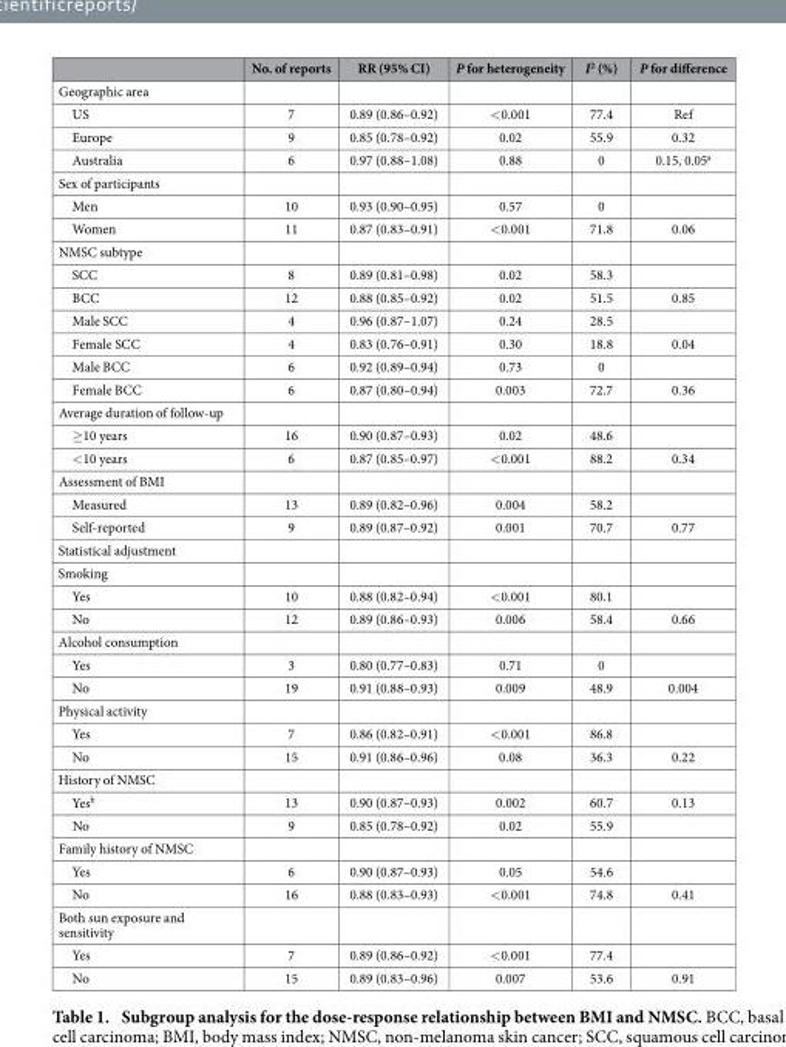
<table><thead><tr><td></td><td>No. of reports</td><td>RR (95% CI)</td><td>P for heterogeneity</td><td>I<sup>2</sup> (%)</td><td>P for difference</td></tr></thead><tbody><tr><td colspan="6">Geographic area</td></tr><tr><td>US</td><td>7</td><td>0.89 (0.86–0.92)</td><td>&lt; 0.001</td><td>77.4</td><td>Ref</td></tr><tr><td>Europe</td><td>9</td><td>0.85 (0.78–0.92)</td><td>0.02</td><td>55.9</td><td>0.32</td></tr><tr><td>Australia</td><td>6</td><td>0.97 (0.88–1.08)</td><td>0.88</td><td>0</td><td>0.15, 0.05<sup>a</sup></td></tr><tr><td colspan="6">Sex of participants</td></tr><tr><td>Men</td><td>10</td><td>0.93 (0.90–0.95)</td><td>0.57</td><td>0</td><td></td></tr><tr><td>Women</td><td>11</td><td>0.87 (0.83–0.91)</td><td>&lt; 0.001</td><td>71.8</td><td>0.06</td></tr><tr><td colspan="6">NMSC subtype</td></tr><tr><td>SCC</td><td>8</td><td>0.89 (0.81–0.98)</td><td>0.02</td><td>58.3</td><td></td></tr><tr><td>BCC</td><td>12</td><td>0.88 (0.85–0.92)</td><td>0.02</td><td>51.5</td><td>0.85</td></tr><tr><td>Male SCC</td><td>4</td><td>0.96 (0.87–1.07)</td><td>0.24</td><td>28.5</td><td></td></tr><tr><td>Female SCC</td><td>4</td><td>0.83 (0.76–0.91)</td><td>0.30</td><td>18.8</td><td>0.04</td></tr><tr><td>Male BCC</td><td>6</td><td>0.92 (0.89–0.94)</td><td>0.73</td><td>0</td><td></td></tr><tr><td>Female BCC</td><td>6</td><td>0.87 (0.80–0.94)</td><td>0.003</td><td>72.7</td><td>0.36</td></tr><tr><td colspan="6">Average duration of follow-up</td></tr><tr><td>≥ 10 years</td><td>16</td><td>0.90 (0.87–0.93)</td><td>0.02</td><td>48.6</td><td></td></tr><tr><td>&lt; 10 years</td><td>6</td><td>0.87 (0.85–0.97)</td><td>&lt; 0.001</td><td>88.2</td><td>0.34</td></tr><tr><td colspan="6">Assessment of BMI</td></tr><tr><td>Measured</td><td>13</td><td>0.89 (0.82–0.96)</td><td>0.004</td><td>58.2</td><td></td></tr><tr><td>Self-reported</td><td>9</td><td>0.89 (0.87–0.92)</td><td>0.001</td><td>70.7</td><td>0.77</td></tr><tr><td colspan="6">Statistical adjustment</td></tr><tr><td colspan="6">Smoking</td></tr><tr><td>Yes</td><td>10</td><td>0.88 (0.82–0.94)</td><td>&lt; 0.001</td><td>80.1</td><td></td></tr><tr><td>No</td><td>12</td><td>0.89 (0.86–0.93)</td><td>0.006</td><td>58.4</td><td>0.66</td></tr><tr><td colspan="6">Alcohol consumption</td></tr><tr><td>Yes</td><td>3</td><td>0.80 (0.77–0.83)</td><td>0.71</td><td>0</td><td></td></tr><tr><td>No</td><td>19</td><td>0.91 (0.88–0.93)</td><td>0.009</td><td>48.9</td><td>0.004</td></tr><tr><td colspan="6">Physical activity</td></tr><tr><td>Yes</td><td>7</td><td>0.86 (0.82–0.91)</td><td>&lt; 0.001</td><td>86.8</td><td></td></tr><tr><td>No</td><td>15</td><td>0.91 (0.86–0.96)</td><td>0.08</td><td>36.3</td><td>0.22</td></tr><tr><td colspan="6">History of NMSC</td></tr><tr><td>Yes<sup>b</sup></td><td>13</td><td>0.90 (0.87–0.93)</td><td>0.002</td><td>60.7</td><td>0.13</td></tr><tr><td>No</td><td>9</td><td>0.85 (0.78–0.92)</td><td>0.02</td><td>55.9</td><td></td></tr><tr><td colspan="6">Family history of NMSC</td></tr><tr><td>Yes</td><td>6</td><td>0.90 (0.87–0.93)</td><td>0.05</td><td>54.6</td><td></td></tr><tr><td>No</td><td>16</td><td>0.88 (0.83–0.93)</td><td>&lt; 0.001</td><td>74.8</td><td>0.41</td></tr><tr><td colspan="6">Both sun exposure and sensitivity</td></tr><tr><td>Yes</td><td>7</td><td>0.89 (0.86–0.92)</td><td>&lt; 0.001</td><td>77.4</td><td></td></tr><tr><td>No</td><td>15</td><td>0.89 (0.83–0.96)</td><td>0.007</td><td>53.6</td><td>0.91</td></tr></tbody></table>